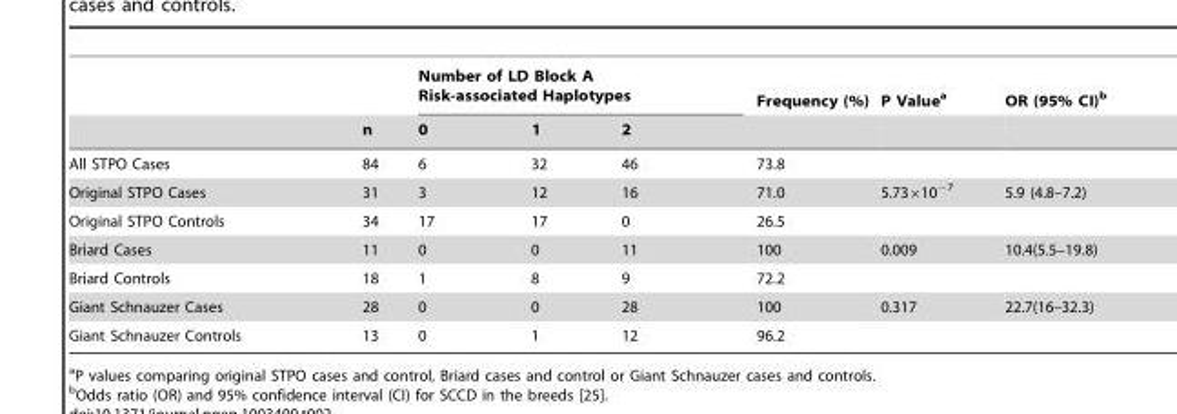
<table><thead><tr><td rowspan="2"></td><td rowspan="2">n</td><td colspan="3">Number of LD Block A Risk-associated Haplotypes</td><td rowspan="2">Frequency (%)</td><td rowspan="2">P Value<sup>a</sup></td><td rowspan="2">OR (95% CI)<sup>b</sup></td></tr><tr><td>0</td><td>1</td><td>2</td></tr></thead><tbody><tr><td>All STPO Cases</td><td>84</td><td>6</td><td>32</td><td>46</td><td>73.8</td><td></td><td></td></tr><tr><td>Original STPO Cases</td><td>31</td><td>3</td><td>12</td><td>16</td><td>71.0</td><td>5.73×10<sup>−7</sup></td><td>5.9 (4.8–7.2)</td></tr><tr><td>Original STPO Controls</td><td>34</td><td>17</td><td>17</td><td>0</td><td>26.5</td><td></td><td></td></tr><tr><td>Briard Cases</td><td>11</td><td>0</td><td>0</td><td>11</td><td>100</td><td>0.009</td><td>10.4(5.5–19.8)</td></tr><tr><td>Briard Controls</td><td>18</td><td>1</td><td>8</td><td>9</td><td>72.2</td><td></td><td></td></tr><tr><td>Giant Schnauzer Cases</td><td>28</td><td>0</td><td>0</td><td>28</td><td>100</td><td>0.317</td><td>22.7(16–32.3)</td></tr><tr><td>Giant Schnauzer Controls</td><td>13</td><td>0</td><td>1</td><td>12</td><td>96.2</td><td></td><td></td></tr></tbody></table>